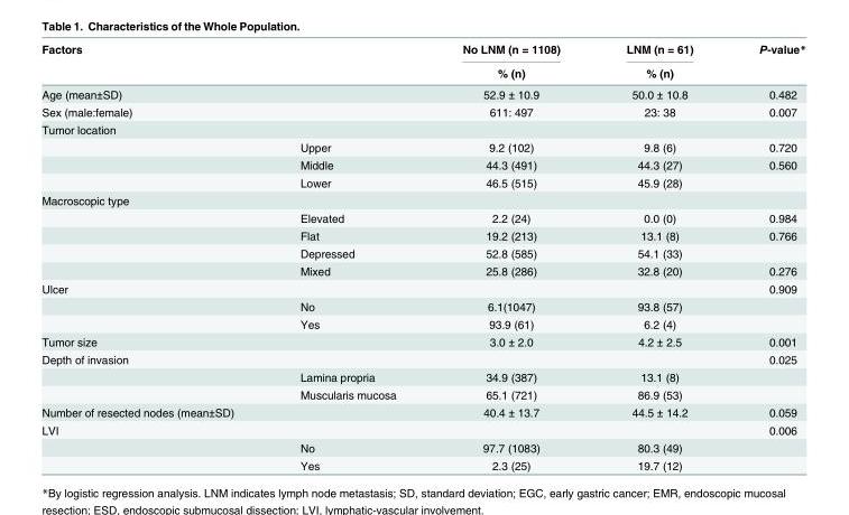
<table><thead><tr><td rowspan="2" colspan="2">Factors</td><td rowspan="3">No LNM (n = 1108) % (n) 52.9 ± 10.9</td><td rowspan="3">LNM (n = 61) % (n) 50.0 ± 10.8</td><td rowspan="3">P-value* 0.482</td></tr><tr></tr><tr><td>Age (mean±SD)</td><td></td></tr></thead><tbody><tr><td>Sex (male:female)</td><td></td><td>611: 497</td><td>23: 38</td><td>0.007</td></tr><tr><td colspan="5">Tumor location</td></tr><tr><td></td><td>Upper</td><td>9.2 (102)</td><td>9.8 (6)</td><td>0.720</td></tr><tr><td></td><td>Middle</td><td>44.3 (491)</td><td>44.3 (27)</td><td>0.560</td></tr><tr><td></td><td>Lower</td><td>46.5 (515)</td><td>45.9 (28)</td><td></td></tr><tr><td colspan="5">Macroscopic type</td></tr><tr><td></td><td>Elevated</td><td>2.2 (24)</td><td>0.0 (0)</td><td>0.984</td></tr><tr><td></td><td>Flat</td><td>19.2 (213)</td><td>13.1 (8)</td><td>0.766</td></tr><tr><td></td><td>Depressed</td><td>52.8 (585)</td><td>54.1 (33)</td><td></td></tr><tr><td></td><td>Mixed</td><td>25.8 (286)</td><td>32.8 (20)</td><td>0.276</td></tr><tr><td rowspan="3">Ulcer</td><td></td><td></td><td></td><td>0.909</td></tr><tr><td>No</td><td>6.1(1047)</td><td>93.8 (57)</td><td></td></tr><tr><td>Yes</td><td>93.9 (61)</td><td>6.2 (4)</td><td></td></tr><tr><td>Tumor size</td><td></td><td>3.0 ± 2.0</td><td>4.2 ± 2.5</td><td>0.001</td></tr><tr><td rowspan="3">Depth of invasion</td><td></td><td></td><td></td><td>0.025</td></tr><tr><td>Lamina propria</td><td>34.9 (387)</td><td>13.1 (8)</td><td></td></tr><tr><td>Muscularis mucosa</td><td>65.1 (721)</td><td>86.9 (53)</td><td></td></tr><tr><td>Number of resected nodes (mean±SD)</td><td></td><td>40.4 ± 13.7</td><td>44.5 ± 14.2</td><td>0.059</td></tr><tr><td rowspan="3">LVI</td><td></td><td></td><td></td><td>0.006</td></tr><tr><td>No</td><td>97.7 (1083)</td><td>80.3 (49)</td><td></td></tr><tr><td>Yes</td><td>2.3 (25)</td><td>19.7 (12)</td><td></td></tr></tbody></table>